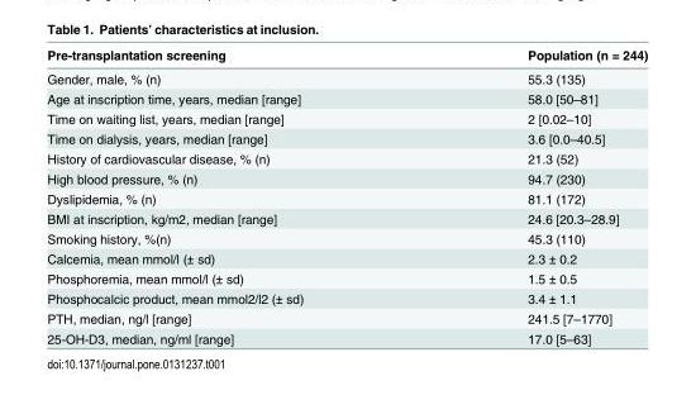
<table><thead><tr><td>Pre-transplantation screening</td><td>Population (n = 244)</td></tr></thead><tbody><tr><td>Gender, male, % (n)</td><td>55.3 (135)</td></tr><tr><td>Age at inscription time, years, median [range]</td><td>58.0 [50–81]</td></tr><tr><td>Time on waiting list, years, median [range]</td><td>2 [0.02–10]</td></tr><tr><td>Time on dialysis, years, median [range]</td><td>3.6 [0.0–40.5]</td></tr><tr><td>History of cardiovascular disease, % (n)</td><td>21.3 (52)</td></tr><tr><td>High blood pressure, % (n)</td><td>94.7 (230)</td></tr><tr><td>Dyslipidemia, % (n)</td><td>81.1 (172)</td></tr><tr><td>BMI at inscription, kg/m2, median [range]</td><td>24.6 [20.3–28.9]</td></tr><tr><td>Smoking history, %(n)</td><td>45.3 (110)</td></tr><tr><td>Calcemia, mean mmol/l (± sd)</td><td>2.3 ± 0.2</td></tr><tr><td>Phosphoremia, mean mmol/l (± sd)</td><td>1.5 ± 0.5</td></tr><tr><td>Phosphocalcic product, mean mmol2/l2 (± sd)</td><td>3.4 ± 1.1</td></tr><tr><td>PTH, median, ng/l [range]</td><td>241.5 [7–1770]</td></tr><tr><td>25-OH-D3, median, ng/ml [range]</td><td>17.0 [5–63]</td></tr></tbody></table>